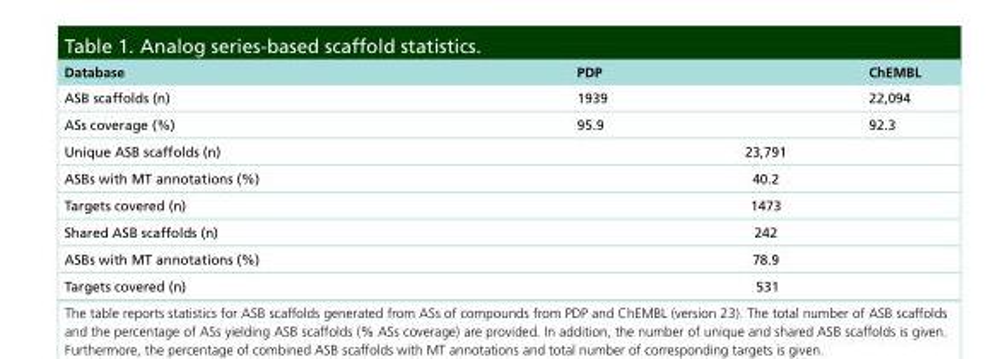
<table><thead><tr><td>Database</td><td>PDP</td><td>ChEMBL</td></tr></thead><tbody><tr><td>ASB scaffolds (n)</td><td>1939</td><td>22,094</td></tr><tr><td>ASs coverage (%)</td><td>95.9</td><td>92.3</td></tr><tr><td>Unique ASB scaffolds (n)</td><td colspan="2">23,791</td></tr><tr><td>ASBs with MT annotations (%)</td><td colspan="2">40.2</td></tr><tr><td>Targets covered (n)</td><td colspan="2">1473</td></tr><tr><td>Shared ASB scaffolds (n)</td><td colspan="2">242</td></tr><tr><td>ASBs with MT annotations (%)</td><td colspan="2">78.9</td></tr><tr><td>Targets covered (n)</td><td colspan="2">531</td></tr></tbody></table>